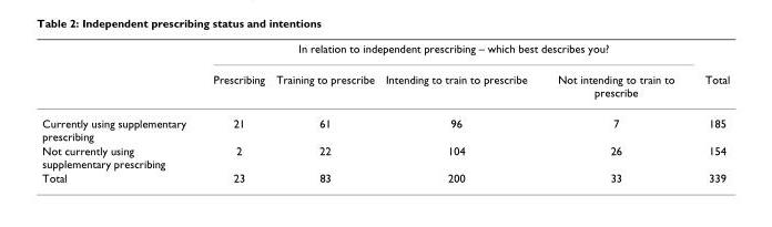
<table><thead><tr><td rowspan="2"></td><td colspan="4">In relation to independent prescribing – which best describes you?</td><td rowspan="2">Total</td></tr><tr><td>Prescribing</td><td>Training to prescribe</td><td>Intending to train to prescribe</td><td>Not intending to train to prescribe</td></tr></thead><tbody><tr><td>Currently using supplementary prescribing</td><td>21</td><td>61</td><td>96</td><td>7</td><td>185</td></tr><tr><td>Not currently using supplementary prescribing</td><td>2</td><td>22</td><td>104</td><td>26</td><td>154</td></tr><tr><td>Total</td><td>23</td><td>83</td><td>200</td><td>33</td><td>339</td></tr></tbody></table>